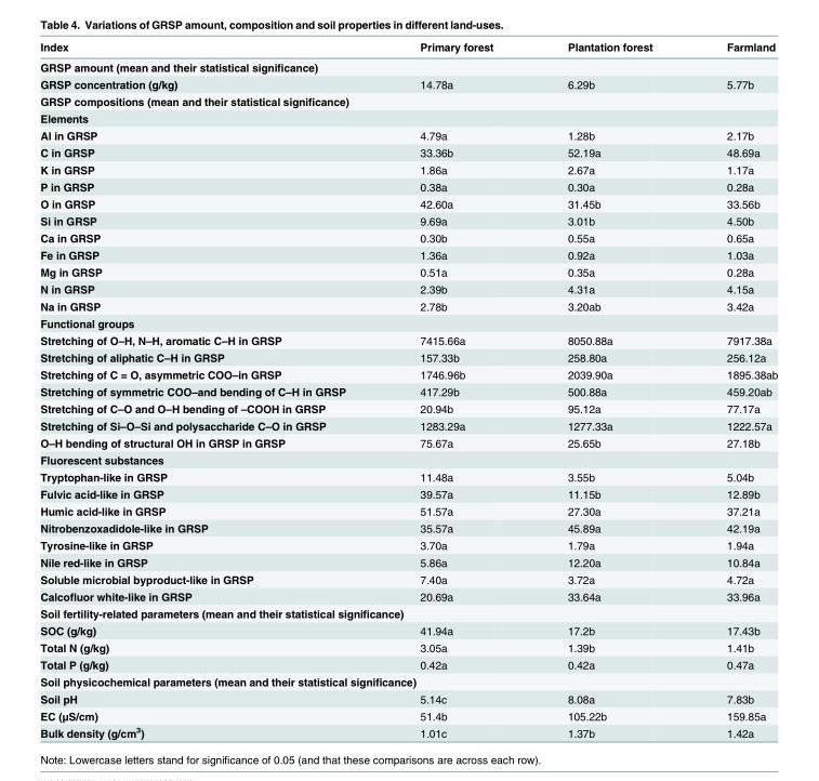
<table><thead><tr><td>Index</td><td>Primary forest</td><td>Plantation forest</td><td>Farmland</td></tr></thead><tbody><tr><td colspan="4">GRSP amount (mean and their statistical significance)</td></tr><tr><td>GRSP concentration (g/kg)</td><td>14.78a</td><td>6.29b</td><td>5.77b</td></tr><tr><td colspan="4">GRSP compositions (mean and their statistical significance)</td></tr><tr><td colspan="4">Elements</td></tr><tr><td>Al in GRSP</td><td>4.79a</td><td>1.28b</td><td>2.17b</td></tr><tr><td>C in GRSP</td><td>33.36b</td><td>52.19a</td><td>48.69a</td></tr><tr><td>K in GRSP</td><td>1.86a</td><td>2.67a</td><td>1.17a</td></tr><tr><td>P in GRSP</td><td>0.38a</td><td>0.30a</td><td>0.28a</td></tr><tr><td>O in GRSP</td><td>42.60a</td><td>31.45b</td><td>33.56b</td></tr><tr><td>Si in GRSP</td><td>9.69a</td><td>3.01b</td><td>4.50b</td></tr><tr><td>Ca in GRSP</td><td>0.30b</td><td>0.55a</td><td>0.65a</td></tr><tr><td>Fe in GRSP</td><td>1.36a</td><td>0.92a</td><td>1.03a</td></tr><tr><td>Mg in GRSP</td><td>0.51a</td><td>0.35a</td><td>0.28a</td></tr><tr><td>N in GRSP</td><td>2.39b</td><td>4.31a</td><td>4.15a</td></tr><tr><td>Na in GRSP</td><td>2.78b</td><td>3.20ab</td><td>3.42a</td></tr><tr><td colspan="4">Functional groups</td></tr><tr><td>Stretching of O–H, N–H, aromatic C–H in GRSP</td><td>7415.66a</td><td>8050.88a</td><td>7917.38a</td></tr><tr><td>Stretching of aliphatic C–H in GRSP</td><td>157.33b</td><td>258.80a</td><td>256.12a</td></tr><tr><td>Stretching of C = O, asymmetric COO–in GRSP</td><td>1746.96b</td><td>2039.90a</td><td>1895.38ab</td></tr><tr><td>Stretching of symmetric COO–and bending of C–H in GRSP</td><td>417.29b</td><td>500.88a</td><td>459.20ab</td></tr><tr><td>Stretching of C–O and O–H bending of –COOH in GRSP</td><td>20.94b</td><td>95.12a</td><td>77.17a</td></tr><tr><td>Stretching of Si–O–Si and polysaccharide C–O in GRSP</td><td>1283.29a</td><td>1277.33a</td><td>1222.57a</td></tr><tr><td>O–H bending of structural OH in GRSP in GRSP</td><td>75.67a</td><td>25.65b</td><td>27.18b</td></tr><tr><td colspan="4">Fluorescent substances</td></tr><tr><td>Tryptophan-like in GRSP</td><td>11.48a</td><td>3.55b</td><td>5.04b</td></tr><tr><td>Fulvic acid-like in GRSP</td><td>39.57a</td><td>11.15b</td><td>12.89b</td></tr><tr><td>Humic acid-like in GRSP</td><td>51.57a</td><td>27.30a</td><td>37.21a</td></tr><tr><td>Nitrobenzoxadidole-like in GRSP</td><td>35.57a</td><td>45.89a</td><td>42.19a</td></tr><tr><td>Tyrosine-like in GRSP</td><td>3.70a</td><td>1.79a</td><td>1.94a</td></tr><tr><td>Nile red-like in GRSP</td><td>5.86a</td><td>12.20a</td><td>10.84a</td></tr><tr><td>Soluble microbial byproduct-like in GRSP</td><td>7.40a</td><td>3.72a</td><td>4.72a</td></tr><tr><td>Calcofluor white-like in GRSP</td><td>20.69a</td><td>33.64a</td><td>33.96a</td></tr><tr><td colspan="4">Soil fertility-related parameters (mean and their statistical significance)</td></tr><tr><td>SOC (g/kg)</td><td>41.94a</td><td>17.2b</td><td>17.43b</td></tr><tr><td>Total N (g/kg)</td><td>3.05a</td><td>1.39b</td><td>1.41b</td></tr><tr><td>Total P (g/kg)</td><td>0.42a</td><td>0.42a</td><td>0.47a</td></tr><tr><td colspan="4">Soil physicochemical parameters (mean and their statistical significance)</td></tr><tr><td>Soil pH</td><td>5.14c</td><td>8.08a</td><td>7.83b</td></tr><tr><td>EC (μS/cm)</td><td>51.4b</td><td>105.22b</td><td>159.85a</td></tr><tr><td>Bulk density (g/cm<sup>3</sup>)</td><td>1.01c</td><td>1.37b</td><td>1.42a</td></tr></tbody></table>